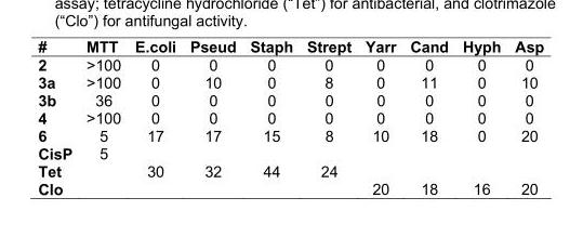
<table><thead><tr><td>#</td><td>MTT</td><td>E.coli</td><td>Pseud</td><td>Staph</td><td>Strept</td><td>Yarr</td><td>Cand</td><td>Hyph</td><td>Asp</td></tr></thead><tbody><tr><td>2</td><td>&gt;100</td><td>0</td><td>0</td><td>0</td><td>0</td><td>0</td><td>0</td><td>0</td><td>0</td></tr><tr><td>3a</td><td>&gt;100</td><td>0</td><td>10</td><td>0</td><td>8</td><td>0</td><td>11</td><td>0</td><td>10</td></tr><tr><td>3b</td><td>36</td><td>0</td><td>0</td><td>0</td><td>0</td><td>0</td><td>0</td><td>0</td><td>0</td></tr><tr><td>4</td><td>&gt;100</td><td>0</td><td>0</td><td>0</td><td>0</td><td>0</td><td>0</td><td>0</td><td>0</td></tr><tr><td>6</td><td>5</td><td>17</td><td>17</td><td>15</td><td>8</td><td>10</td><td>18</td><td>0</td><td>20</td></tr><tr><td>CisP</td><td>5</td><td></td><td></td><td></td><td></td><td></td><td></td><td></td><td></td></tr><tr><td>Tet</td><td></td><td>30</td><td>32</td><td>44</td><td>24</td><td></td><td></td><td></td><td></td></tr><tr><td>Clo</td><td></td><td></td><td></td><td></td><td></td><td>20</td><td>18</td><td>16</td><td>20</td></tr></tbody></table>